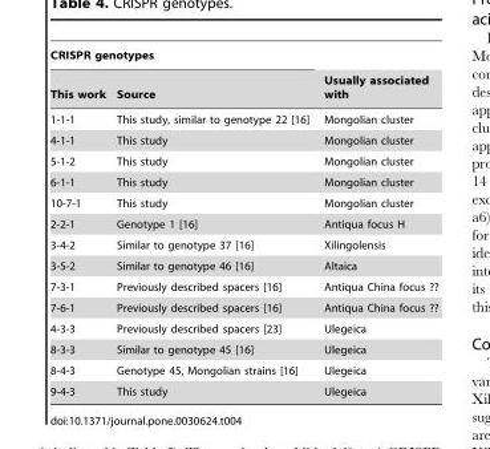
<table><thead><tr><td colspan="2">CRISPR genotypes</td><td rowspan="2">Usually associated with</td></tr><tr><td>This work</td><td>Source</td></tr></thead><tbody><tr><td>1-1-1</td><td>This study, similar to genotype 22 [16]</td><td>Mongolian cluster</td></tr><tr><td>4-1-1</td><td>This study</td><td>Mongolian cluster</td></tr><tr><td>5-1-2</td><td>This study</td><td>Mongolian cluster</td></tr><tr><td>6-1-1</td><td>This study</td><td>Mongolian cluster</td></tr><tr><td>10-7-1</td><td>This study</td><td>Mongolian cluster</td></tr><tr><td>2-2-1</td><td>Genotype 1 [16]</td><td>Antiqua focus H</td></tr><tr><td>3-4-2</td><td>Similar to genotype 37 [16]</td><td>Xilingolensis</td></tr><tr><td>3-5-2</td><td>Similar to genotype 46 [16]</td><td>Altaica</td></tr><tr><td>7-3-1</td><td>Previously described spacers [16]</td><td>Antiqua China focus ??</td></tr><tr><td>7-6-1</td><td>Previously described spacers [16]</td><td>Antiqua China focus ??</td></tr><tr><td>4-3-3</td><td>Previously described spacers [23]</td><td>Ulegeica</td></tr><tr><td>8-3-3</td><td>Similar to genotype 45 [16]</td><td>Ulegeica</td></tr><tr><td>8-4-3</td><td>Genotype 45, Mongolian strains [16]</td><td>Ulegeica</td></tr><tr><td>9-4-3</td><td>This study</td><td>Ulegeica</td></tr></tbody></table>